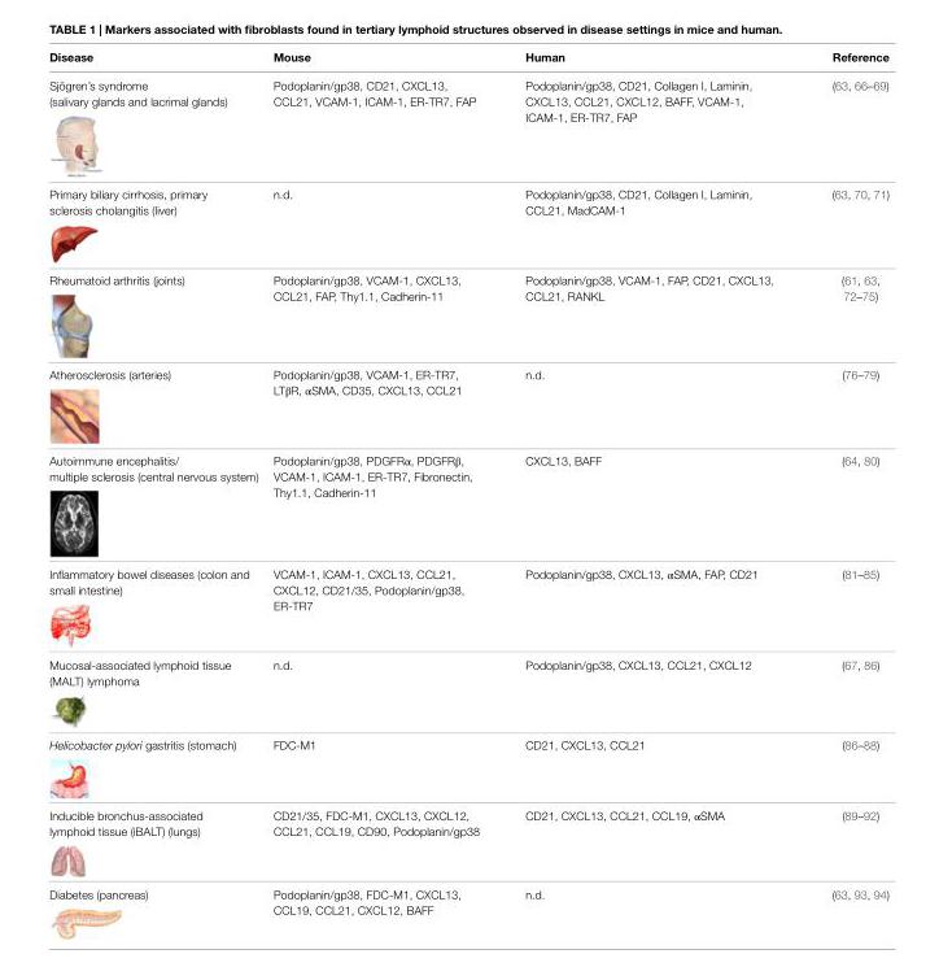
<table><thead><tr><td>Disease</td><td>Mouse</td><td>Human</td><td>Reference</td></tr></thead><tbody><tr><td>Sjögren’s syndrome (salivary glands and lacrimal glands)</td><td>Podoplanin/gp38, CD21, CXCL13, CCL21, VCAM-1, ICAM-1, ER-TR7, FAP</td><td>Podoplanin/gp38, CD21, Collagen I, Laminin, CXCL13, CCL21, CXCL12, BAFF, VCAM-1, ICAM-1, ER-TR7, FAP</td><td>(63, 66–69)</td></tr><tr><td>Primary biliary cirrhosis, primary sclerosis cholangitis (liver)</td><td>n.d.</td><td>Podoplanin/gp38, CD21, Collagen I, Laminin, CCL21, MadCAM-1</td><td>(63, 70, 71)</td></tr><tr><td>Rheumatoid arthritis (joints)</td><td>Podoplanin/gp38, VCAM-1, CXCL13, CCL21, FAP, Thy1.1, Cadherin-11</td><td>Podoplanin/gp38, VCAM-1, FAP, CD21, CXCL13, CCL21, RANKL</td><td>(61, 63, 72–75)</td></tr><tr><td>Atherosclerosis (arteries)</td><td>Podoplanin/gp38, VCAM-1, ER-TR7, LTβR, αSMA, CD35, CXCL13, CCL21</td><td>n.d.</td><td>(76–79)</td></tr><tr><td>Autoimmune encephalitis/ multiple sclerosis (central nervous system)</td><td>Podoplanin/gp38, PDGFRα, PDGFRβ, VCAM-1, ICAM-1, ER-TR7, Fibronectin, Thy1.1, Cadherin-11</td><td>CXCL13, BAFF</td><td>(64, 80)</td></tr><tr><td>Inflammatory bowel diseases (colon and small intestine)</td><td>VCAM-1, ICAM-1, CXCL13, CCL21, CXCL12, CD21/35, Podoplanin/gp38, ER-TR7</td><td>Podoplanin/gp38, CXCL13, αSMA, FAP, CD21</td><td>(81–85)</td></tr><tr><td>Mucosal-associated lymphoid tissue (MALT) lymphoma</td><td>n.d.</td><td>Podoplanin/gp38, CXCL13, CCL21, CXCL12</td><td>(67, 86)</td></tr><tr><td>Helicobacter pylori gastritis (stomach)</td><td>FDC-M1</td><td>CD21, CXCL13, CCL21</td><td>(86–88)</td></tr><tr><td>Inducible bronchus-associated lymphoid tissue (iBALT) (lungs)</td><td>CD21/35, FDC-M1, CXCL13, CXCL12, CCL21, CCL19, CD90, Podoplanin/gp38</td><td>CD21, CXCL13, CCL21, CCL19, αSMA</td><td>(89–92)</td></tr><tr><td>Diabetes (pancreas)</td><td>Podoplanin/gp38, FDC-M1, CXCL13, CCL19, CCL21, CXCL12, BAFF</td><td>n.d.</td><td>(63, 93, 94)</td></tr></tbody></table>